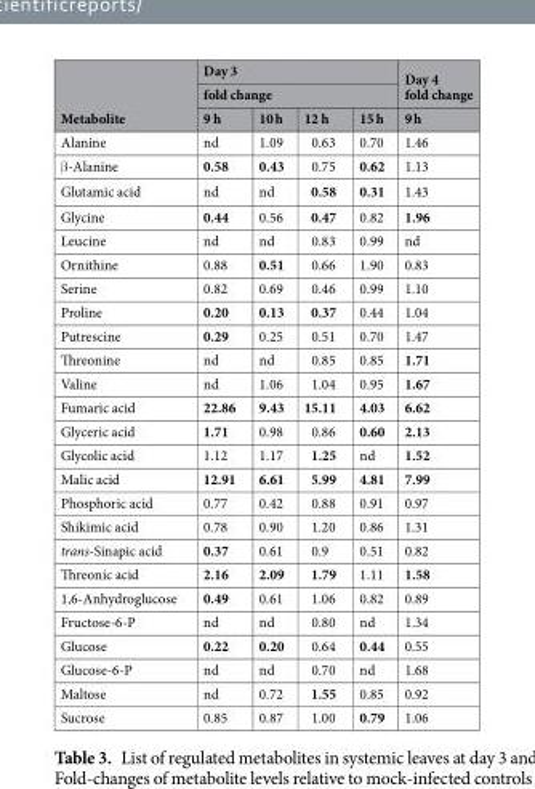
<table><thead><tr><td rowspan="3">Metabolite</td><td rowspan="2" colspan="4">Day 3 fold change</td><td rowspan="3">Day 4 fold change 9 h</td></tr><tr></tr><tr><td>9 h</td><td>10 h</td><td>12 h</td><td>15 h</td></tr></thead><tbody><tr><td>Alanine</td><td>nd</td><td>1.09</td><td>0.63</td><td>0.70</td><td>1.46</td></tr><tr><td>β-Alanine</td><td>0.58</td><td>0.43</td><td>0.75</td><td>0.62</td><td>1.13</td></tr><tr><td>Glutamic acid</td><td>nd</td><td>nd</td><td>0.58</td><td>0.31</td><td>1.43</td></tr><tr><td>Glycine</td><td>0.44</td><td>0.56</td><td>0.47</td><td>0.82</td><td>1.96</td></tr><tr><td>Leucine</td><td>nd</td><td>nd</td><td>0.83</td><td>0.99</td><td>nd</td></tr><tr><td>Ornithine</td><td>0.88</td><td>0.51</td><td>0.66</td><td>1.90</td><td>0.83</td></tr><tr><td>Serine</td><td>0.82</td><td>0.69</td><td>0.46</td><td>0.99</td><td>1.10</td></tr><tr><td>Proline</td><td>0.20</td><td>0.13</td><td>0.37</td><td>0.44</td><td>1.04</td></tr><tr><td>Putrescine</td><td>0.29</td><td>0.25</td><td>0.51</td><td>0.70</td><td>1.47</td></tr><tr><td>Threonine</td><td>nd</td><td>nd</td><td>0.85</td><td>0.85</td><td>1.71</td></tr><tr><td>Valine</td><td>nd</td><td>1.06</td><td>1.04</td><td>0.95</td><td>1.67</td></tr><tr><td>Fumaric acid</td><td>22.86</td><td>9.43</td><td>15.11</td><td>4.03</td><td>6.62</td></tr><tr><td>Glyceric acid</td><td>1.71</td><td>0.98</td><td>0.86</td><td>0.60</td><td>2.13</td></tr><tr><td>Glycolic acid</td><td>1.12</td><td>1.17</td><td>1.25</td><td>nd</td><td>1.52</td></tr><tr><td>Malic acid</td><td>12.91</td><td>6.61</td><td>5.99</td><td>4.81</td><td>7.99</td></tr><tr><td>Phosphoric acid</td><td>0.77</td><td>0.42</td><td>0.88</td><td>0.91</td><td>0.97</td></tr><tr><td>Shikimic acid</td><td>0.78</td><td>0.90</td><td>1.20</td><td>0.86</td><td>1.31</td></tr><tr><td>trans-Sinapic acid</td><td>0.37</td><td>0.61</td><td>0.9</td><td>0.51</td><td>0.82</td></tr><tr><td>Threonic acid</td><td>2.16</td><td>2.09</td><td>1.79</td><td>1.11</td><td>1.58</td></tr><tr><td>1,6-Anhydroglucose</td><td>0.49</td><td>0.61</td><td>1.06</td><td>0.82</td><td>0.89</td></tr><tr><td>Fructose-6-P</td><td>nd</td><td>nd</td><td>0.80</td><td>nd</td><td>1.34</td></tr><tr><td>Glucose</td><td>0.22</td><td>0.20</td><td>0.64</td><td>0.44</td><td>0.55</td></tr><tr><td>Glucose-6-P</td><td>nd</td><td>nd</td><td>0.70</td><td>nd</td><td>1.68</td></tr><tr><td>Maltose</td><td>nd</td><td>0.72</td><td>1.55</td><td>0.85</td><td>0.92</td></tr><tr><td>Sucrose</td><td>0.85</td><td>0.87</td><td>1.00</td><td>0.79</td><td>1.06</td></tr></tbody></table>